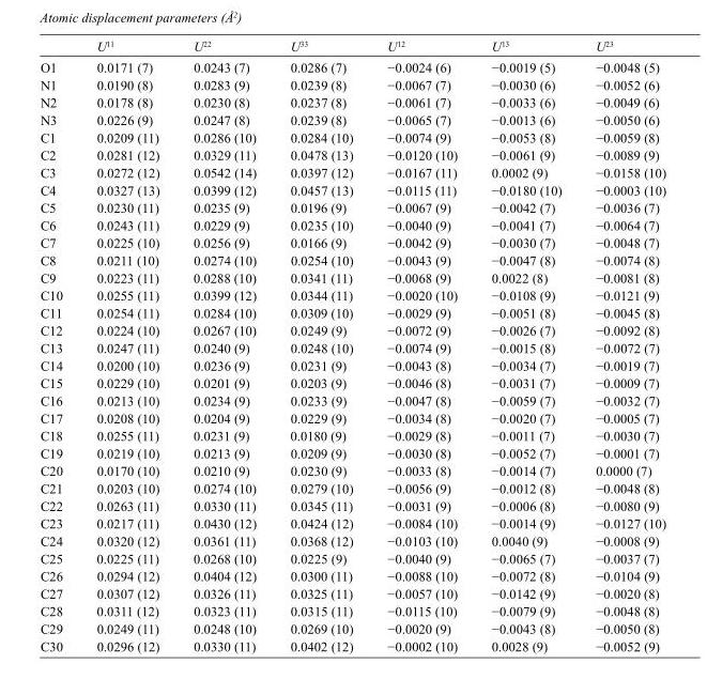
<table><thead><tr><td></td><td>U<sup>11</sup></td><td>U<sup>22</sup></td><td>U<sup>33</sup></td><td>U<sup>12</sup></td><td>U<sup>13</sup></td><td>U<sup>23</sup></td></tr></thead><tbody><tr><td>O1</td><td>0.0171 (7)</td><td>0.0243 (7)</td><td>0.0286 (7)</td><td>−0.0024 (6)</td><td>−0.0019 (5)</td><td>−0.0048 (5)</td></tr><tr><td>N1</td><td>0.0190 (8)</td><td>0.0283 (9)</td><td>0.0239 (8)</td><td>−0.0067 (7)</td><td>−0.0030 (6)</td><td>−0.0052 (6)</td></tr><tr><td>N2</td><td>0.0178 (8)</td><td>0.0230 (8)</td><td>0.0237 (8)</td><td>−0.0061 (7)</td><td>−0.0033 (6)</td><td>−0.0049 (6)</td></tr><tr><td>N3</td><td>0.0226 (9)</td><td>0.0247 (8)</td><td>0.0239 (8)</td><td>−0.0065 (7)</td><td>−0.0013 (6)</td><td>−0.0050 (6)</td></tr><tr><td>C1</td><td>0.0209 (11)</td><td>0.0286 (10)</td><td>0.0284 (10)</td><td>−0.0074 (9)</td><td>−0.0053 (8)</td><td>−0.0059 (8)</td></tr><tr><td>C2</td><td>0.0281 (12)</td><td>0.0329 (11)</td><td>0.0478 (13)</td><td>−0.0120 (10)</td><td>−0.0061 (9)</td><td>−0.0089 (9)</td></tr><tr><td>C3</td><td>0.0272 (12)</td><td>0.0542 (14)</td><td>0.0397 (12)</td><td>−0.0167 (11)</td><td>0.0002 (9)</td><td>−0.0158 (10)</td></tr><tr><td>C4</td><td>0.0327 (13)</td><td>0.0399 (12)</td><td>0.0457 (13)</td><td>−0.0115 (11)</td><td>−0.0180 (10)</td><td>−0.0003 (10)</td></tr><tr><td>C5</td><td>0.0230 (11)</td><td>0.0235 (9)</td><td>0.0196 (9)</td><td>−0.0067 (9)</td><td>−0.0042 (7)</td><td>−0.0036 (7)</td></tr><tr><td>C6</td><td>0.0243 (11)</td><td>0.0229 (9)</td><td>0.0235 (10)</td><td>−0.0040 (9)</td><td>−0.0041 (7)</td><td>−0.0064 (7)</td></tr><tr><td>C7</td><td>0.0225 (10)</td><td>0.0256 (9)</td><td>0.0166 (9)</td><td>−0.0042 (9)</td><td>−0.0030 (7)</td><td>−0.0048 (7)</td></tr><tr><td>C8</td><td>0.0211 (10)</td><td>0.0274 (10)</td><td>0.0254 (10)</td><td>−0.0043 (9)</td><td>−0.0047 (8)</td><td>−0.0074 (8)</td></tr><tr><td>C9</td><td>0.0223 (11)</td><td>0.0288 (10)</td><td>0.0341 (11)</td><td>−0.0068 (9)</td><td>0.0022 (8)</td><td>−0.0081 (8)</td></tr><tr><td>C10</td><td>0.0255 (11)</td><td>0.0399 (12)</td><td>0.0344 (11)</td><td>−0.0020 (10)</td><td>−0.0108 (9)</td><td>−0.0121 (9)</td></tr><tr><td>C11</td><td>0.0254 (11)</td><td>0.0284 (10)</td><td>0.0309 (10)</td><td>−0.0029 (9)</td><td>−0.0051 (8)</td><td>−0.0045 (8)</td></tr><tr><td>C12</td><td>0.0224 (10)</td><td>0.0267 (10)</td><td>0.0249 (9)</td><td>−0.0072 (9)</td><td>−0.0026 (7)</td><td>−0.0092 (8)</td></tr><tr><td>C13</td><td>0.0247 (11)</td><td>0.0240 (9)</td><td>0.0248 (10)</td><td>−0.0074 (9)</td><td>−0.0015 (8)</td><td>−0.0072 (7)</td></tr><tr><td>C14</td><td>0.0200 (10)</td><td>0.0236 (9)</td><td>0.0231 (9)</td><td>−0.0043 (8)</td><td>−0.0034 (7)</td><td>−0.0019 (7)</td></tr><tr><td>C15</td><td>0.0229 (10)</td><td>0.0201 (9)</td><td>0.0203 (9)</td><td>−0.0046 (8)</td><td>−0.0031 (7)</td><td>−0.0009 (7)</td></tr><tr><td>C16</td><td>0.0213 (10)</td><td>0.0234 (9)</td><td>0.0233 (9)</td><td>−0.0047 (8)</td><td>−0.0059 (7)</td><td>−0.0032 (7)</td></tr><tr><td>C17</td><td>0.0208 (10)</td><td>0.0204 (9)</td><td>0.0229 (9)</td><td>−0.0034 (8)</td><td>−0.0020 (7)</td><td>−0.0005 (7)</td></tr><tr><td>C18</td><td>0.0255 (11)</td><td>0.0231 (9)</td><td>0.0180 (9)</td><td>−0.0029 (8)</td><td>−0.0011 (7)</td><td>−0.0030 (7)</td></tr><tr><td>C19</td><td>0.0219 (10)</td><td>0.0213 (9)</td><td>0.0209 (9)</td><td>−0.0030 (8)</td><td>−0.0052 (7)</td><td>−0.0001 (7)</td></tr><tr><td>C20</td><td>0.0170 (10)</td><td>0.0210 (9)</td><td>0.0230 (9)</td><td>−0.0033 (8)</td><td>−0.0014 (7)</td><td>0.0000 (7)</td></tr><tr><td>C21</td><td>0.0203 (10)</td><td>0.0274 (10)</td><td>0.0279 (10)</td><td>−0.0056 (9)</td><td>−0.0012 (8)</td><td>−0.0048 (8)</td></tr><tr><td>C22</td><td>0.0263 (11)</td><td>0.0330 (11)</td><td>0.0345 (11)</td><td>−0.0031 (9)</td><td>−0.0006 (8)</td><td>−0.0080 (9)</td></tr><tr><td>C23</td><td>0.0217 (11)</td><td>0.0430 (12)</td><td>0.0424 (12)</td><td>−0.0084 (10)</td><td>−0.0014 (9)</td><td>−0.0127 (10)</td></tr><tr><td>C24</td><td>0.0320 (12)</td><td>0.0361 (11)</td><td>0.0368 (12)</td><td>−0.0103 (10)</td><td>0.0040 (9)</td><td>−0.0008 (9)</td></tr><tr><td>C25</td><td>0.0225 (11)</td><td>0.0268 (10)</td><td>0.0225 (9)</td><td>−0.0040 (9)</td><td>−0.0065 (7)</td><td>−0.0037 (7)</td></tr><tr><td>C26</td><td>0.0294 (12)</td><td>0.0404 (12)</td><td>0.0300 (11)</td><td>−0.0088 (10)</td><td>−0.0072 (8)</td><td>−0.0104 (9)</td></tr><tr><td>C27</td><td>0.0307 (12)</td><td>0.0326 (11)</td><td>0.0325 (11)</td><td>−0.0057 (10)</td><td>−0.0142 (9)</td><td>−0.0020 (8)</td></tr><tr><td>C28</td><td>0.0311 (12)</td><td>0.0323 (11)</td><td>0.0315 (11)</td><td>−0.0115 (10)</td><td>−0.0079 (9)</td><td>−0.0048 (8)</td></tr><tr><td>C29</td><td>0.0249 (11)</td><td>0.0248 (10)</td><td>0.0269 (10)</td><td>−0.0020 (9)</td><td>−0.0043 (8)</td><td>−0.0050 (8)</td></tr><tr><td>C30</td><td>0.0296 (12)</td><td>0.0330 (11)</td><td>0.0402 (12)</td><td>−0.0002 (10)</td><td>0.0028 (9)</td><td>−0.0052 (9)</td></tr></tbody></table>